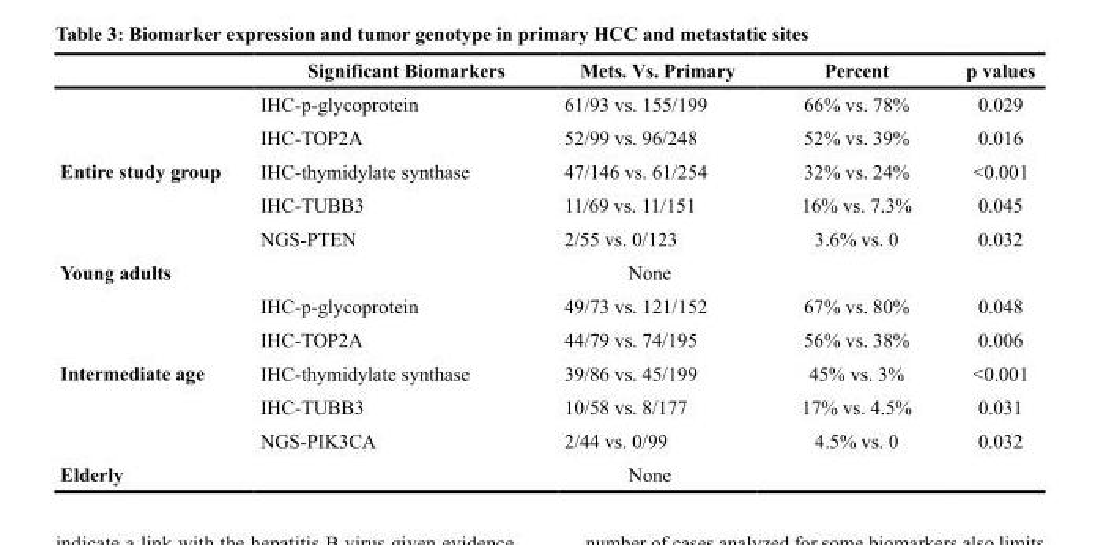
<table><thead><tr><td></td><td>Significant Biomarkers</td><td>Mets. Vs. Primary</td><td>Percent</td><td>p values</td></tr></thead><tbody><tr><td rowspan="5">Entire study group</td><td>IHC-p-glycoprotein</td><td>61/93 vs. 155/199</td><td>66% vs. 78%</td><td>0.029</td></tr><tr><td>IHC-TOP2A</td><td>52/99 vs. 96/248</td><td>52% vs. 39%</td><td>0.016</td></tr><tr><td>IHC-thymidylate synthase</td><td>47/146 vs. 61/254</td><td>32% vs. 24%</td><td>&lt;0.001</td></tr><tr><td>IHC-TUBB3</td><td>11/69 vs. 11/151</td><td>16% vs. 7.3%</td><td>0.045</td></tr><tr><td>NGS-PTEN</td><td>2/55 vs. 0/123</td><td>3.6% vs. 0</td><td>0.032</td></tr><tr><td>Young adults</td><td></td><td>None</td><td></td><td></td></tr><tr><td rowspan="5">Intermediate age</td><td>IHC-p-glycoprotein</td><td>49/73 vs. 121/152</td><td>67% vs. 80%</td><td>0.048</td></tr><tr><td>IHC-TOP2A</td><td>44/79 vs. 74/195</td><td>56% vs. 38%</td><td>0.006</td></tr><tr><td>IHC-thymidylate synthase</td><td>39/86 vs. 45/199</td><td>45% vs. 3%</td><td>&lt;0.001</td></tr><tr><td>IHC-TUBB3</td><td>10/58 vs. 8/177</td><td>17% vs. 4.5%</td><td>0.031</td></tr><tr><td>NGS-PIK3CA</td><td>2/44 vs. 0/99</td><td>4.5% vs. 0</td><td>0.032</td></tr><tr><td>Elderly</td><td></td><td>None</td><td></td><td></td></tr></tbody></table>